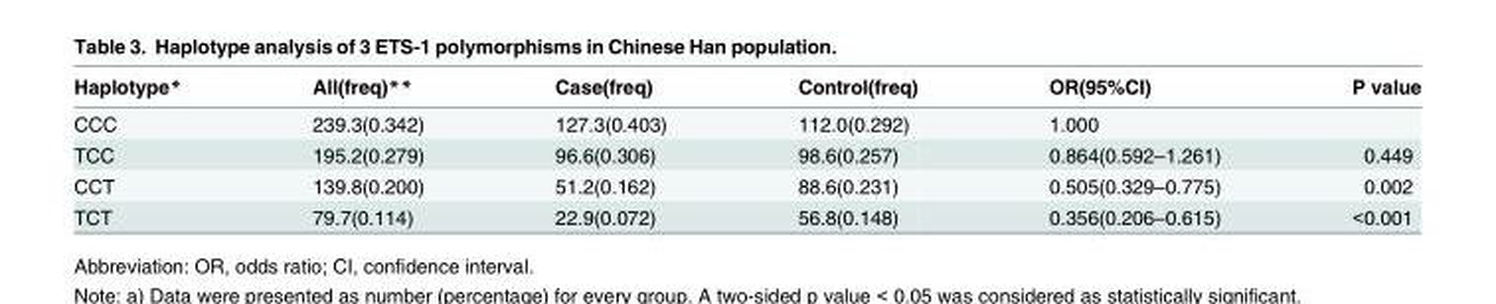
<table><thead><tr><td>Haplotype*</td><td>All(freq)**</td><td>Case(freq)</td><td>Control(freq)</td><td>OR(95%CI)</td><td>P value</td></tr></thead><tbody><tr><td>CCC</td><td>239.3(0.342)</td><td>127.3(0.403)</td><td>112.0(0.292)</td><td>1.000</td><td></td></tr><tr><td>TCC</td><td>195.2(0.279)</td><td>96.6(0.306)</td><td>98.6(0.257)</td><td>0.864(0.592–1.261)</td><td>0.449</td></tr><tr><td>CCT</td><td>139.8(0.200)</td><td>51.2(0.162)</td><td>88.6(0.231)</td><td>0.505(0.329–0.775)</td><td>0.002</td></tr><tr><td>TCT</td><td>79.7(0.114)</td><td>22.9(0.072)</td><td>56.8(0.148)</td><td>0.356(0.206–0.615)</td><td>&lt;0.001</td></tr></tbody></table>